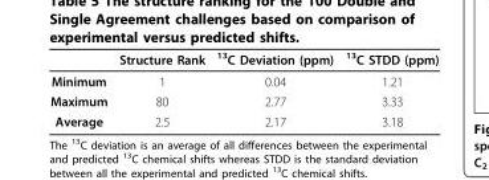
<table><thead><tr><td></td><td>Structure Rank</td><td><sup>13</sup>C Deviation (ppm)</td><td><sup>13</sup>C STDD (ppm)</td></tr></thead><tbody><tr><td>Minimum</td><td>1</td><td>0.04</td><td>1.21</td></tr><tr><td>Maximum</td><td>80</td><td>2.77</td><td>3.33</td></tr><tr><td>Average</td><td>2.5</td><td>2.17</td><td>3.18</td></tr></tbody></table>